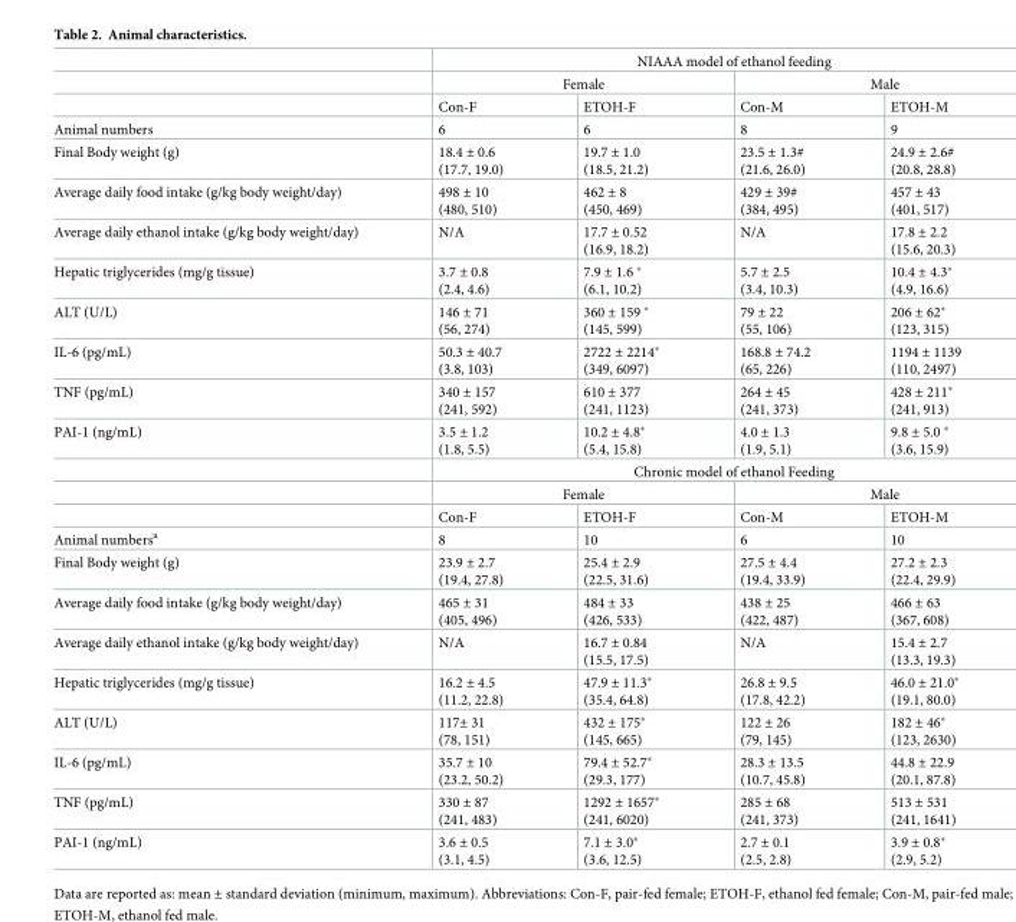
<table><thead><tr><td rowspan="3"></td><td colspan="4">NIAAA model of ethanol feeding</td></tr><tr><td colspan="2">Female</td><td colspan="2">Male</td></tr><tr><td>Con-F</td><td>ETOH-F</td><td>Con-M</td><td>ETOH-M</td></tr></thead><tbody><tr><td>Animal numbers</td><td>6</td><td>6</td><td>8</td><td>9</td></tr><tr><td>Final Body weight (g)</td><td>18.4 ± 0.6 (17.7, 19.0)</td><td>19.7 ± 1.0 (18.5, 21.2)</td><td>23.5 ± 1.3# (21.6, 26.0)</td><td>24.9 ± 2.6# (20.8, 28.8)</td></tr><tr><td>Average daily food intake (g/kg body weight/day)</td><td>498 ± 10 (480, 510)</td><td>462 ± 8 (450, 469)</td><td>429 ± 39# (384, 495)</td><td>457 ± 43 (401, 517)</td></tr><tr><td>Average daily ethanol intake (g/kg body weight/day)</td><td>N/A</td><td>17.7 ± 0.52 (16.9, 18.2)</td><td>N/A</td><td>17.8 ± 2.2 (15.6, 20.3)</td></tr><tr><td>Hepatic triglycerides (mg/g tissue)</td><td>3.7 ± 0.8 (2.4, 4.6)</td><td>7.9 ± 1.6 * (6.1, 10.2)</td><td>5.7 ± 2.5 (3.4, 10.3)</td><td>10.4 ± 4.3* (4.9, 16.6)</td></tr><tr><td>ALT (U/L)</td><td>146 ± 71 (56, 274)</td><td>360 ± 159 * (145, 599)</td><td>79 ± 22 (55, 106)</td><td>206 ± 62* (123, 315)</td></tr><tr><td>IL-6 (pg/mL)</td><td>50.3 ± 40.7 (3.8, 103)</td><td>2722 ± 2214* (349, 6097)</td><td>168.8 ± 74.2 (65, 226)</td><td>1194 ± 1139 (110, 2497)</td></tr><tr><td>TNF (pg/mL)</td><td>340 ± 157 (241, 592)</td><td>610 ± 377 (241, 1123)</td><td>264 ± 45 (241, 373)</td><td>428 ± 211* (241, 913)</td></tr><tr><td rowspan="4">PAI-1 (ng/mL)</td><td>3.5 ± 1.2 (1.8, 5.5)</td><td>10.2 ± 4.8* (5.4, 15.8)</td><td>4.0 ± 1.3 (1.9, 5.1)</td><td>9.8 ± 5.0 * (3.6, 15.9)</td></tr><tr><td colspan="4">Chronic model of ethanol Feeding</td></tr><tr><td colspan="2">Female</td><td colspan="2">Male</td></tr><tr><td>Con-F</td><td>ETOH-F</td><td>Con-M</td><td>ETOH-M</td></tr><tr><td>Animal numbers<sup>a</sup></td><td>8</td><td>10</td><td>6</td><td>10</td></tr><tr><td>Final Body weight (g)</td><td>23.9 ± 2.7 (19.4, 27.8)</td><td>25.4 ± 2.9 (22.5, 31.6)</td><td>27.5 ± 4.4 (19.4, 33.9)</td><td>27.2 ± 2.3 (22.4, 29.9)</td></tr><tr><td>Average daily food intake (g/kg body weight/day)</td><td>465 ± 31 (405, 496)</td><td>484 ± 33 (426, 533)</td><td>438 ± 25 (422, 487)</td><td>466 ± 63 (367, 608)</td></tr><tr><td>Average daily ethanol intake (g/kg body weight/day)</td><td>N/A</td><td>16.7 ± 0.84 (15.5, 17.5)</td><td>N/A</td><td>15.4 ± 2.7 (13.3, 19.3)</td></tr><tr><td>Hepatic triglycerides (mg/g tissue)</td><td>16.2 ± 4.5 (11.2, 22.8)</td><td>47.9 ± 11.3* (35.4, 64.8)</td><td>26.8 ± 9.5 (17.8, 42.2)</td><td>46.0 ± 21.0* (19.1, 80.0)</td></tr><tr><td>ALT (U/L)</td><td>117± 31 (78, 151)</td><td>432 ± 175* (145, 665)</td><td>122 ± 26 (79, 145)</td><td>182 ± 46* (123, 2630)</td></tr><tr><td>IL-6 (pg/mL)</td><td>35.7 ± 10 (23.2, 50.2)</td><td>79.4 ± 52.7* (29.3, 177)</td><td>28.3 ± 13.5 (10.7, 45.8)</td><td>44.8 ± 22.9 (20.1, 87.8)</td></tr><tr><td>TNF (pg/mL)</td><td>330 ± 87 (241, 483)</td><td>1292 ± 1657* (241, 6020)</td><td>285 ± 68 (241, 373)</td><td>513 ± 531 (241, 1641)</td></tr><tr><td>PAI-1 (ng/mL)</td><td>3.6 ± 0.5 (3.1, 4.5)</td><td>7.1 ± 3.0* (3.6, 12.5)</td><td>2.7 ± 0.1 (2.5, 2.8)</td><td>3.9 ± 0.8* (2.9, 5.2)</td></tr></tbody></table>